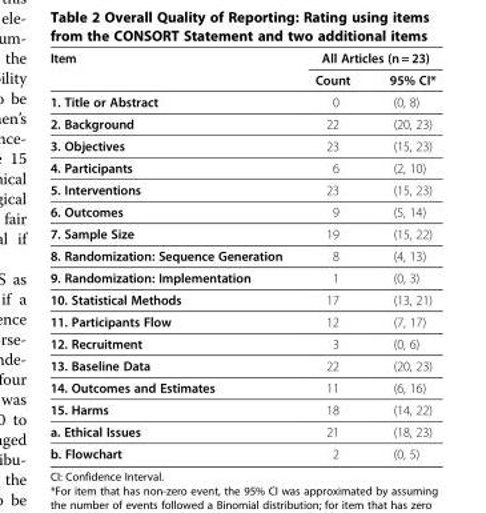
<table><thead><tr><td rowspan="2">Item</td><td colspan="2">All Articles (n = 23)</td></tr><tr><td>Count</td><td>95% CI*</td></tr></thead><tbody><tr><td>1. Title or Abstract</td><td>0</td><td>(0, 8)</td></tr><tr><td>2. Background</td><td>22</td><td>(20, 23)</td></tr><tr><td>3. Objectives</td><td>23</td><td>(15, 23)</td></tr><tr><td>4. Participants</td><td>6</td><td>(2, 10)</td></tr><tr><td>5. Interventions</td><td>23</td><td>(15, 23)</td></tr><tr><td>6. Outcomes</td><td>9</td><td>(5, 14)</td></tr><tr><td>7. Sample Size</td><td>19</td><td>(15, 22)</td></tr><tr><td>8. Randomization: Sequence Generation</td><td>8</td><td>(4, 13)</td></tr><tr><td>9. Randomization: Implementation</td><td>1</td><td>(0, 3)</td></tr><tr><td>10. Statistical Methods</td><td>17</td><td>(13, 21)</td></tr><tr><td>11. Participants Flow</td><td>12</td><td>(7, 17)</td></tr><tr><td>12. Recruitment</td><td>3</td><td>(0, 6)</td></tr><tr><td>13. Baseline Data</td><td>22</td><td>(20, 23)</td></tr><tr><td>14. Outcomes and Estimates</td><td>11</td><td>(6, 16)</td></tr><tr><td>15. Harms</td><td>18</td><td>(14, 22)</td></tr><tr><td>a. Ethical Issues</td><td>21</td><td>(18, 23)</td></tr><tr><td>b. Flowchart</td><td>2</td><td>(0, 5)</td></tr></tbody></table>